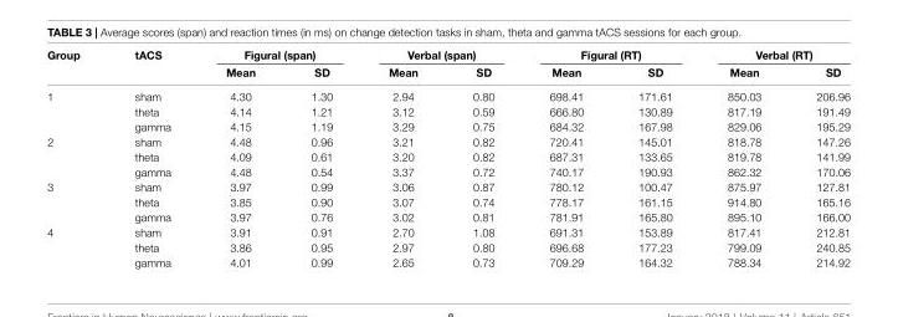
<table><thead><tr><td rowspan="2">Group</td><td rowspan="2">tACS</td><td colspan="2">Figural (span)</td><td colspan="2">Verbal (span)</td><td colspan="2">Figural (RT)</td><td colspan="2">Verbal (RT)</td></tr><tr><td>Mean</td><td>SD</td><td>Mean</td><td>SD</td><td>Mean</td><td>SD</td><td>Mean</td><td>SD</td></tr></thead><tbody><tr><td rowspan="3">1</td><td>sham</td><td>4.30</td><td>1.30</td><td>2.94</td><td>0.80</td><td>698.41</td><td>171.61</td><td>850.03</td><td>206.96</td></tr><tr><td>theta</td><td>4.14</td><td>1.21</td><td>3.12</td><td>0.59</td><td>666.80</td><td>130.89</td><td>817.19</td><td>191.49</td></tr><tr><td>gamma</td><td>4.15</td><td>1.19</td><td>3.29</td><td>0.75</td><td>684.32</td><td>167.98</td><td>829.06</td><td>195.29</td></tr><tr><td rowspan="3">2</td><td>sham</td><td>4.48</td><td>0.96</td><td>3.21</td><td>0.82</td><td>720.41</td><td>145.01</td><td>818.78</td><td>147.26</td></tr><tr><td>theta</td><td>4.09</td><td>0.61</td><td>3.20</td><td>0.82</td><td>687.31</td><td>133.65</td><td>819.78</td><td>141.99</td></tr><tr><td>gamma</td><td>4.48</td><td>0.54</td><td>3.37</td><td>0.72</td><td>740.17</td><td>190.93</td><td>862.32</td><td>170.06</td></tr><tr><td rowspan="3">3</td><td>sham</td><td>3.97</td><td>0.99</td><td>3.06</td><td>0.87</td><td>780.12</td><td>100.47</td><td>875.97</td><td>127.81</td></tr><tr><td>theta</td><td>3.85</td><td>0.90</td><td>3.07</td><td>0.74</td><td>778.17</td><td>161.15</td><td>914.80</td><td>165.16</td></tr><tr><td>gamma</td><td>3.97</td><td>0.76</td><td>3.02</td><td>0.81</td><td>781.91</td><td>165.80</td><td>895.10</td><td>166.00</td></tr><tr><td rowspan="3">4</td><td>sham</td><td>3.91</td><td>0.91</td><td>2.70</td><td>1.08</td><td>691.31</td><td>153.89</td><td>817.41</td><td>212.81</td></tr><tr><td>theta</td><td>3.86</td><td>0.95</td><td>2.97</td><td>0.80</td><td>696.68</td><td>177.23</td><td>799.09</td><td>240.85</td></tr><tr><td>gamma</td><td>4.01</td><td>0.99</td><td>2.65</td><td>0.73</td><td>709.29</td><td>164.32</td><td>788.34</td><td>214.92</td></tr></tbody></table>